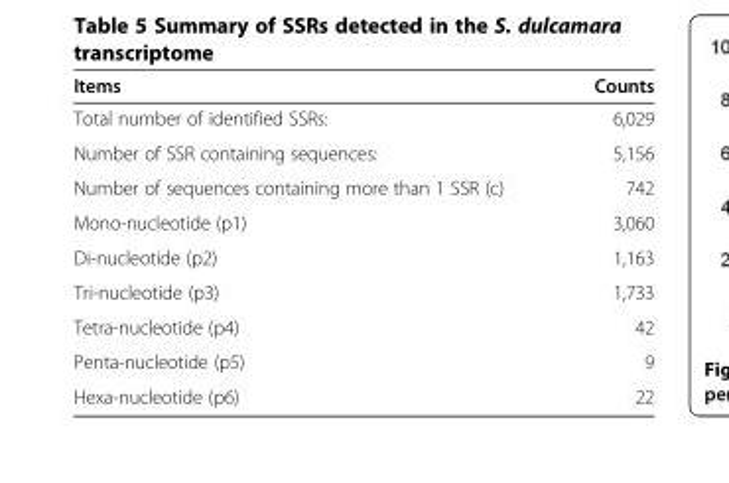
<table><thead><tr><td>Items</td><td>Counts</td></tr></thead><tbody><tr><td>Total number of identified SSRs:</td><td>6,029</td></tr><tr><td>Number of SSR containing sequences:</td><td>5,156</td></tr><tr><td>Number of sequences containing more than 1 SSR (c)</td><td>742</td></tr><tr><td>Mono-nucleotide (p1)</td><td>3,060</td></tr><tr><td>Di-nucleotide (p2)</td><td>1,163</td></tr><tr><td>Tri-nucleotide (p3)</td><td>1,733</td></tr><tr><td>Tetra-nucleotide (p4)</td><td>42</td></tr><tr><td>Penta-nucleotide (p5)</td><td>9</td></tr><tr><td>Hexa-nucleotide (p6)</td><td>22</td></tr></tbody></table>